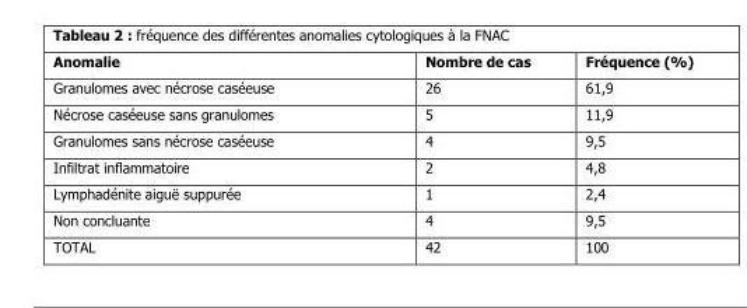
<table><thead><tr><td>Anomalie</td><td>Nombre de cas</td><td>Fréquence (%)</td></tr></thead><tbody><tr><td>Granulomes avec nécrose caséeuse</td><td>26</td><td>61,9</td></tr><tr><td>Nécrose caséeuse sans granulomes</td><td>5</td><td>11,9</td></tr><tr><td>Granulomes sans nécrose caséeuse</td><td>4</td><td>9,5</td></tr><tr><td>Infiltrat inflammatoire</td><td>2</td><td>4,8</td></tr><tr><td>Lymphadénite aiguë suppurée</td><td>1</td><td>2,4</td></tr><tr><td>Non concluante</td><td>4</td><td>9,5</td></tr><tr><td>TOTAL</td><td>42</td><td>100</td></tr></tbody></table>